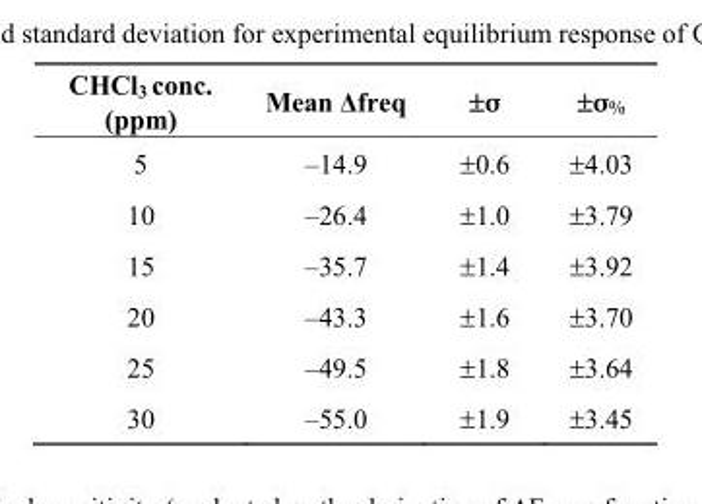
<table><thead><tr><td>CHCl<sub>3</sub> conc. (ppm)</td><td>Mean Δfreq</td><td>±σ</td><td>±σ<sub>%</sub></td></tr></thead><tbody><tr><td>5</td><td>–14.9</td><td>±0.6</td><td>±4.03</td></tr><tr><td>10</td><td>–26.4</td><td>±1.0</td><td>±3.79</td></tr><tr><td>15</td><td>–35.7</td><td>±1.4</td><td>±3.92</td></tr><tr><td>20</td><td>–43.3</td><td>±1.6</td><td>±3.70</td></tr><tr><td>25</td><td>–49.5</td><td>±1.8</td><td>±3.64</td></tr><tr><td>30</td><td>–55.0</td><td>±1.9</td><td>±3.45</td></tr></tbody></table>